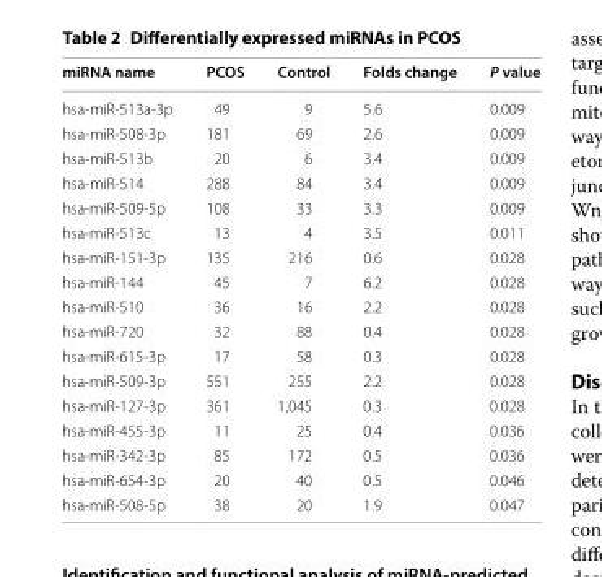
<table><thead><tr><td>miRNA name</td><td>PCOS</td><td>Control</td><td>Folds change</td><td>P value</td></tr></thead><tbody><tr><td>hsa-miR-513a-3p</td><td>49</td><td>9</td><td>5.6</td><td>0.009</td></tr><tr><td>hsa-miR-508-3p</td><td>181</td><td>69</td><td>2.6</td><td>0.009</td></tr><tr><td>hsa-miR-513b</td><td>20</td><td>6</td><td>3.4</td><td>0.009</td></tr><tr><td>hsa-miR-514</td><td>288</td><td>84</td><td>3.4</td><td>0.009</td></tr><tr><td>hsa-miR-509-5p</td><td>108</td><td>33</td><td>3.3</td><td>0.009</td></tr><tr><td>hsa-miR-513c</td><td>13</td><td>4</td><td>3.5</td><td>0.011</td></tr><tr><td>hsa-miR-151-3p</td><td>135</td><td>216</td><td>0.6</td><td>0.028</td></tr><tr><td>hsa-miR-144</td><td>45</td><td>7</td><td>6.2</td><td>0.028</td></tr><tr><td>hsa-miR-510</td><td>36</td><td>16</td><td>2.2</td><td>0.028</td></tr><tr><td>hsa-miR-720</td><td>32</td><td>88</td><td>0.4</td><td>0.028</td></tr><tr><td>hsa-miR-615-3p</td><td>17</td><td>58</td><td>0.3</td><td>0.028</td></tr><tr><td>hsa-miR-509-3p</td><td>551</td><td>255</td><td>2.2</td><td>0.028</td></tr><tr><td>hsa-miR-127-3p</td><td>361</td><td>1,045</td><td>0.3</td><td>0.028</td></tr><tr><td>hsa-miR-455-3p</td><td>11</td><td>25</td><td>0.4</td><td>0.036</td></tr><tr><td>hsa-miR-342-3p</td><td>85</td><td>172</td><td>0.5</td><td>0.036</td></tr><tr><td>hsa-miR-654-3p</td><td>20</td><td>40</td><td>0.5</td><td>0.046</td></tr><tr><td>hsa-miR-508-5p</td><td>38</td><td>20</td><td>1.9</td><td>0.047</td></tr></tbody></table>